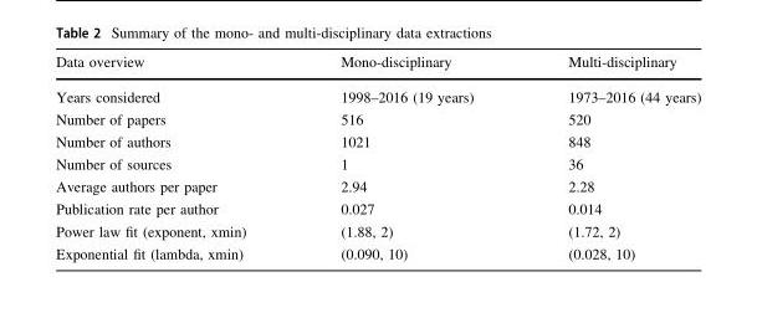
<table><thead><tr><td>Data overview</td><td>Mono-disciplinary</td><td>Multi-disciplinary</td></tr></thead><tbody><tr><td>Years considered</td><td>1998–2016 (19 years)</td><td>1973–2016 (44 years)</td></tr><tr><td>Number of papers</td><td>516</td><td>520</td></tr><tr><td>Number of authors</td><td>1021</td><td>848</td></tr><tr><td>Number of sources</td><td>1</td><td>36</td></tr><tr><td>Average authors per paper</td><td>2.94</td><td>2.28</td></tr><tr><td>Publication rate per author</td><td>0.027</td><td>0.014</td></tr><tr><td>Power law fit (exponent, xmin)</td><td>(1.88, 2)</td><td>(1.72, 2)</td></tr><tr><td>Exponential fit (lambda, xmin)</td><td>(0.090, 10)</td><td>(0.028, 10)</td></tr></tbody></table>